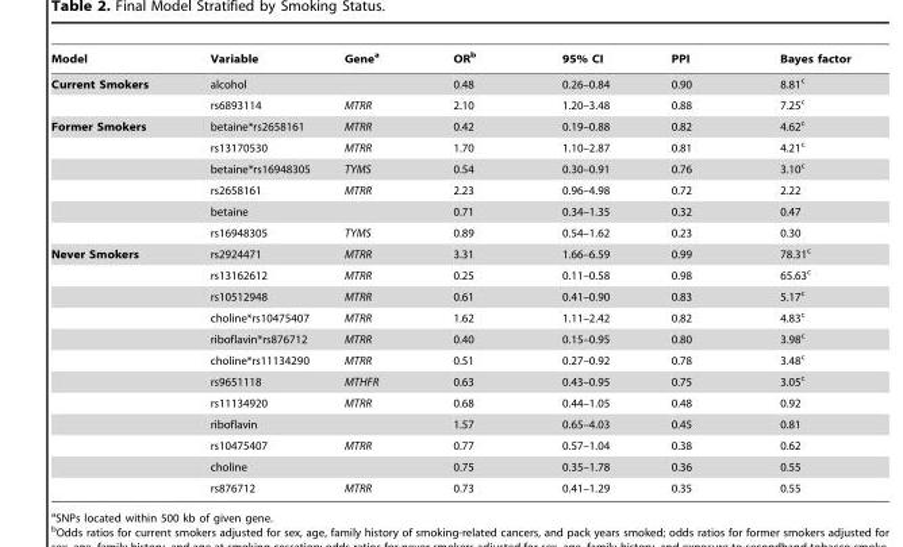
<table><thead><tr><td>Model</td><td>Variable</td><td>Gene<sup>a</sup></td><td>OR<sup>b</sup></td><td>95% CI</td><td>PPI</td><td>Bayes factor</td></tr></thead><tbody><tr><td rowspan="2">Current Smokers</td><td>alcohol</td><td></td><td>0.48</td><td>0.26–0.84</td><td>0.90</td><td>8.81<sup>c</sup></td></tr><tr><td>rs6893114</td><td>MTRR</td><td>2.10</td><td>1.20–3.48</td><td>0.88</td><td>7.25<sup>c</sup></td></tr><tr><td rowspan="6">Former Smokers</td><td>betaine*rs2658161</td><td>MTRR</td><td>0.42</td><td>0.19–0.88</td><td>0.82</td><td>4.62<sup>c</sup></td></tr><tr><td>rs13170530</td><td>MTRR</td><td>1.70</td><td>1.10–2.87</td><td>0.81</td><td>4.21<sup>c</sup></td></tr><tr><td>betaine*rs16948305</td><td>TYMS</td><td>0.54</td><td>0.30–0.91</td><td>0.76</td><td>3.10<sup>c</sup></td></tr><tr><td>rs2658161</td><td>MTRR</td><td>2.23</td><td>0.96–4.98</td><td>0.72</td><td>2.22</td></tr><tr><td>betaine</td><td></td><td>0.71</td><td>0.34–1.35</td><td>0.32</td><td>0.47</td></tr><tr><td>rs16948305</td><td>TYMS</td><td>0.89</td><td>0.54–1.62</td><td>0.23</td><td>0.30</td></tr><tr><td rowspan="12">Never Smokers</td><td>rs2924471</td><td>MTRR</td><td>3.31</td><td>1.66–6.59</td><td>0.99</td><td>78.31<sup>c</sup></td></tr><tr><td>rs13162612</td><td>MTRR</td><td>0.25</td><td>0.11–0.58</td><td>0.98</td><td>65.63<sup>c</sup></td></tr><tr><td>rs10512948</td><td>MTRR</td><td>0.61</td><td>0.41–0.90</td><td>0.83</td><td>5.17<sup>c</sup></td></tr><tr><td>choline*rs10475407</td><td>MTRR</td><td>1.62</td><td>1.11–2.42</td><td>0.82</td><td>4.83<sup>c</sup></td></tr><tr><td>riboflavin*rs876712</td><td>MTRR</td><td>0.40</td><td>0.15–0.95</td><td>0.80</td><td>3.98<sup>c</sup></td></tr><tr><td>choline*rs11134290</td><td>MTRR</td><td>0.51</td><td>0.27–0.92</td><td>0.78</td><td>3.48<sup>c</sup></td></tr><tr><td>rs9651118</td><td>MTHFR</td><td>0.63</td><td>0.43–0.95</td><td>0.75</td><td>3.05<sup>c</sup></td></tr><tr><td>rs11134920</td><td>MTRR</td><td>0.68</td><td>0.44–1.05</td><td>0.48</td><td>0.92</td></tr><tr><td>riboflavin</td><td></td><td>1.57</td><td>0.65–4.03</td><td>0.45</td><td>0.81</td></tr><tr><td>rs10475407</td><td>MTRR</td><td>0.77</td><td>0.57–1.04</td><td>0.38</td><td>0.62</td></tr><tr><td>choline</td><td></td><td>0.75</td><td>0.35–1.78</td><td>0.36</td><td>0.55</td></tr><tr><td>rs876712</td><td>MTRR</td><td>0.73</td><td>0.41–1.29</td><td>0.35</td><td>0.55</td></tr></tbody></table>